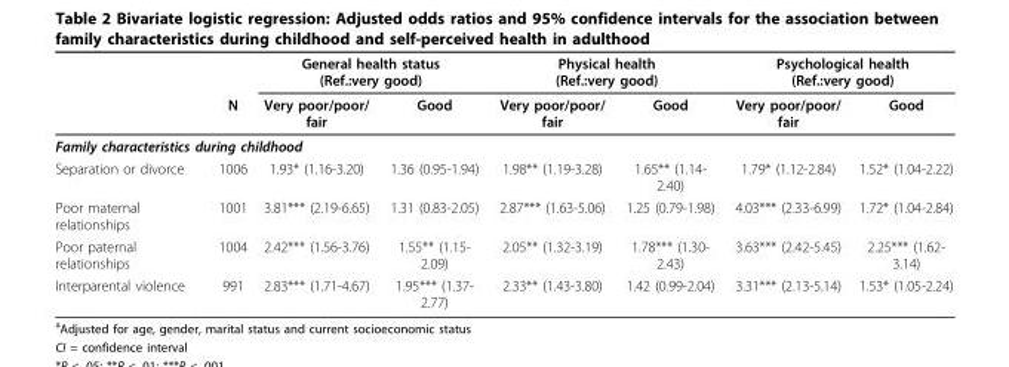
<table><thead><tr><td rowspan="2"></td><td rowspan="2">N</td><td colspan="2">General health status (Ref.:very good)</td><td colspan="2">Physical health (Ref.:very good)</td><td colspan="2">Psychological health (Ref.:very good)</td></tr><tr><td>Very poor/poor/ fair</td><td>Good</td><td>Very poor/poor/ fair</td><td>Good</td><td>Very poor/poor/ fair</td><td>Good</td></tr></thead><tbody><tr><td colspan="8">Family characteristics during childhood</td></tr><tr><td>Separation or divorce</td><td>1006</td><td>1.93* (1.16-3.20)</td><td>1.36 (0.95-1.94)</td><td>1.98** (1.19-3.28)</td><td>1.65** (1.14- 2.40)</td><td>1.79* (1.12-2.84)</td><td>1.52* (1.04-2.22)</td></tr><tr><td>Poor maternal relationships</td><td>1001</td><td>3.81*** (2.19-6.65)</td><td>1.31 (0.83-2.05)</td><td>2.87*** (1.63-5.06)</td><td>1.25 (0.79-1.98)</td><td>4.03*** (2.33-6.99)</td><td>1.72* (1.04-2.84)</td></tr><tr><td>Poor paternal relationships</td><td>1004</td><td>2.42*** (1.56-3.76)</td><td>1.55** (1.15- 2.09)</td><td>2.05** (1.32-3.19)</td><td>1.78*** (1.30- 2.43)</td><td>3.63*** (2.42-5.45)</td><td>2.25*** (1.62- 3.14)</td></tr><tr><td>Interparental violence</td><td>991</td><td>2.83*** (1.71-4.67)</td><td>1.95*** (1.37- 2.77)</td><td>2.33** (1.43-3.80)</td><td>1.42 (0.99-2.04)</td><td>3.31*** (2.13-5.14)</td><td>1.53* (1.05-2.24)</td></tr></tbody></table>